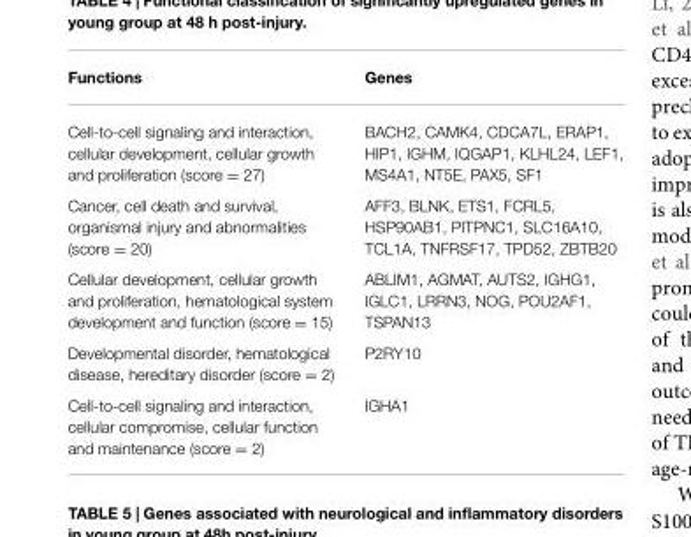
<table><thead><tr><td>Functions</td><td>Genes</td></tr></thead><tbody><tr><td>Cell-to-cell signaling and interaction, cellular development, cellular growth and proliferation (score = 27)</td><td>BACH2, CAMK4, CDCA7L, ERAP1, HIP1, IGHM, IQGAP1, KLHL24, LEF1, MS4A1, NT5E, PAX5, SF1</td></tr><tr><td>Cancer, cell death and survival, organismal injury and abnormalities (score = 20)</td><td>AFF3, BLNK, ETS1, FCRL5, HSP90AB1, PITPNC1, SLC16A10, TCL1A, TNFRSF17, TPD52, ZBTB20</td></tr><tr><td>Cellular development, cellular growth and proliferation, hematological system development and function (score = 15)</td><td>ABLIM1, AGMAT, AUTS2, IGHG1, IGLC1, LRRN3, NOG, POU2AF1, TSPAN13</td></tr><tr><td>Developmental disorder, hematological disease, hereditary disorder (score = 2)</td><td>P2RY10</td></tr><tr><td>Cell-to-cell signaling and interaction, cellular compromise, cellular function and maintenance (score = 2)</td><td>IGHA1</td></tr></tbody></table>